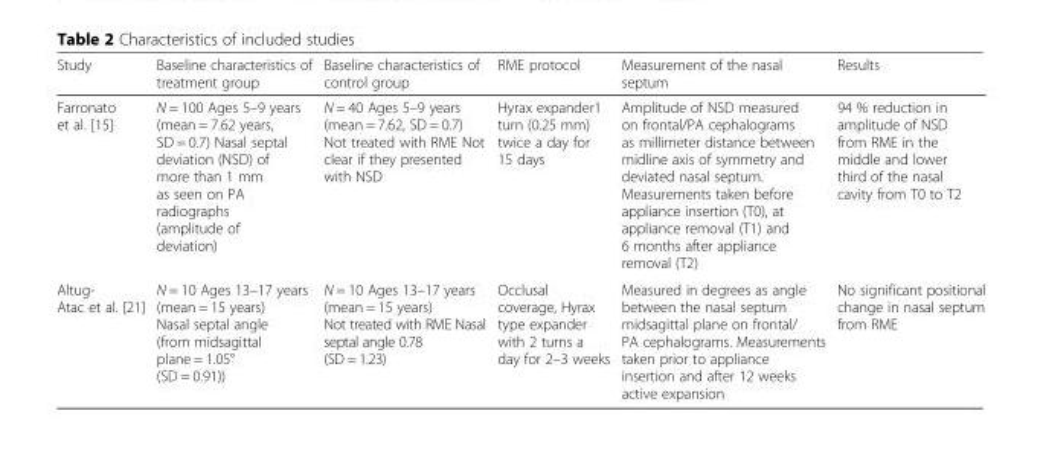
<table><thead><tr><td>Study</td><td>Baseline characteristics of treatment group</td><td>Baseline characteristics of control group</td><td>RME protocol</td><td>Measurement of the nasal septum</td><td>Results</td></tr></thead><tbody><tr><td>Farronato et al. [15]</td><td>N = 100 Ages 5–9 years (mean = 7.62 years, SD = 0.7) Nasal septal deviation (NSD) of more than 1 mm as seen on PA radiographs (amplitude of deviation)</td><td>N = 40 Ages 5–9 years (mean = 7.62, SD = 0.7) Not treated with RME Not clear if they presented with NSD</td><td>Hyrax expander1 turn (0.25 mm) twice a day for 15 days</td><td>Amplitude of NSD measured on frontal/PA cephalograms as millimeter distance between midline axis of symmetry and deviated nasal septum. Measurements taken before appliance insertion (T0), at appliance removal (T1) and 6 months after appliance removal (T2)</td><td>94 % reduction in amplitude of NSD from RME in the middle and lower third of the nasal cavity from T0 to T2</td></tr><tr><td>Altug- Atac et al. [21]</td><td>N = 10 Ages 13–17 years (mean = 15 years) Nasal septal angle (from midsagittal plane = 1.05° (SD = 0.91))</td><td>N = 10 Ages 13–17 years (mean = 15 years) Not treated with RME Nasal septal angle 0.78 (SD = 1.23)</td><td>Occlusal coverage, Hyrax type expander with 2 turns a day for 2–3 weeks</td><td>Measured in degrees as angle between the nasal septum midsagittal plane on frontal/ PA cephalograms. Measurements taken prior to appliance insertion and after 12 weeks active expansion</td><td>No significant positional change in nasal septum from RME</td></tr></tbody></table>